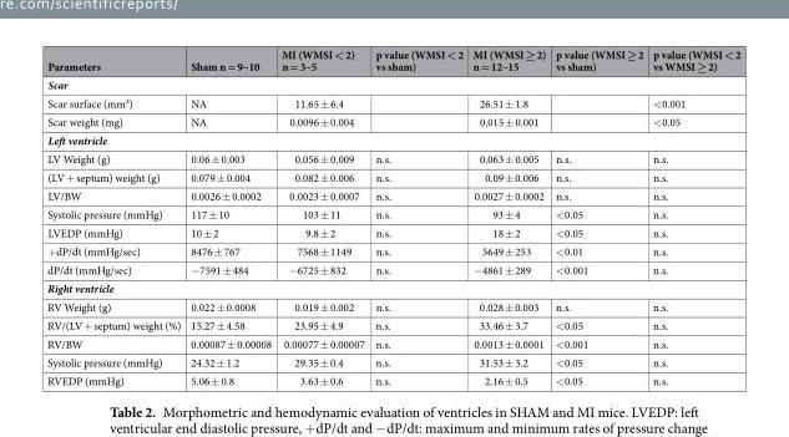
<table><thead><tr><td>Parameters</td><td>Sham n = 9–10</td><td>MI (WMSI &lt; 2) n = 3–5</td><td>p value (WMSI &lt; 2 vs sham)</td><td>MI (WMSI ≥ 2) n = 12–15</td><td>p value (WMSI ≥ 2 vs sham)</td><td>p value (WMSI &lt; 2 vs WMSI ≥ 2)</td></tr></thead><tbody><tr><td colspan="7">Scar</td></tr><tr><td>Scar surface (mm²)</td><td>NA</td><td>11.65 ± 6.4</td><td></td><td>26.51 ± 1.8</td><td></td><td>&lt;0.001</td></tr><tr><td>Scar weight (mg)</td><td>NA</td><td>0.0096 ± 0.004</td><td></td><td>0.015 ± 0.001</td><td></td><td>&lt;0.05</td></tr><tr><td colspan="7">Left ventricle</td></tr><tr><td>LV Weight (g)</td><td>0.06 ± 0.003</td><td>0.056 ± 0.009</td><td>n.s.</td><td>0.063 ± 0.005</td><td>n.s.</td><td>n.s.</td></tr><tr><td>(LV + septum) weight (g)</td><td>0.079 ± 0.004</td><td>0.082 ± 0.006</td><td>n.s.</td><td>0.09 ± 0.006</td><td>n.s.</td><td>n.s.</td></tr><tr><td>LV/BW</td><td>0.0026 ± 0.0002</td><td>0.0023 ± 0.0007</td><td>n.s.</td><td>0.0027 ± 0.0002</td><td>n.s.</td><td>n.s.</td></tr><tr><td>Systolic pressure (mmHg)</td><td>117 ± 10</td><td>103 ± 11</td><td>n.s.</td><td>93 ± 4</td><td>&lt;0.05</td><td>n.s.</td></tr><tr><td>LVEDP (mmHg)</td><td>10 ± 2</td><td>9.8 ± 2</td><td>n.s.</td><td>18 ± 2</td><td>&lt;0.05</td><td>n.s.</td></tr><tr><td>+dP/dt (mmHg/sec)</td><td>8476 ± 767</td><td>7568 ± 1149</td><td>n.s.</td><td>5649 ± 253</td><td>&lt;0.01</td><td>n.s.</td></tr><tr><td>dP/dt (mmHg/sec)</td><td>−7591 ± 484</td><td>−6725 ± 832</td><td>n.s.</td><td>−4861 ± 289</td><td>&lt;0.001</td><td>n.s.</td></tr><tr><td colspan="7">Right ventricle</td></tr><tr><td>RV Weight (g)</td><td>0.022 ± 0.0008</td><td>0.019 ± 0.002</td><td>n.s.</td><td>0.028 ± 0.003</td><td>n.s.</td><td>n.s.</td></tr><tr><td>RV/(LV + septum) weight (%)</td><td>15.27 ± 4.58</td><td>23.95 ± 4.9</td><td>n.s.</td><td>33.46 ± 3.7</td><td>&lt;0.05</td><td>n.s.</td></tr><tr><td>RV/BW</td><td>0.00087 ± 0.00008</td><td>0.00077 ± 0.00007</td><td>n.s.</td><td>0.0013 ± 0.0001</td><td>&lt;0.001</td><td>n.s.</td></tr><tr><td>Systolic pressure (mmHg)</td><td>24.32 ± 1.2</td><td>29.35 ± 0.4</td><td>n.s.</td><td>31.53 ± 3.2</td><td>&lt;0.05</td><td>n.s.</td></tr><tr><td>RVEDP (mmHg)</td><td>5.06 ± 0.8</td><td>3.63 ± 0.6</td><td>n.s.</td><td>2.16 ± 0.5</td><td>&lt;0.05</td><td>n.s.</td></tr></tbody></table>